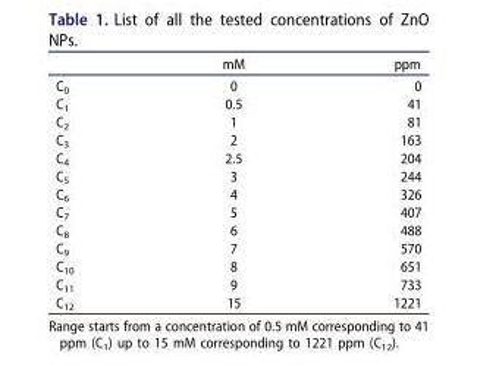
<table><thead><tr><td></td><td>mM</td><td>ppm</td></tr></thead><tbody><tr><td>C<sub>0</sub></td><td>0</td><td>0</td></tr><tr><td>C<sub>1</sub></td><td>0.5</td><td>41</td></tr><tr><td>C<sub>2</sub></td><td>1</td><td>81</td></tr><tr><td>C<sub>3</sub></td><td>2</td><td>163</td></tr><tr><td>C<sub>4</sub></td><td>2.5</td><td>204</td></tr><tr><td>C<sub>5</sub></td><td>3</td><td>244</td></tr><tr><td>C<sub>6</sub></td><td>4</td><td>326</td></tr><tr><td>C<sub>7</sub></td><td>5</td><td>407</td></tr><tr><td>C<sub>8</sub></td><td>6</td><td>488</td></tr><tr><td>C<sub>9</sub></td><td>7</td><td>570</td></tr><tr><td>C<sub>10</sub></td><td>8</td><td>651</td></tr><tr><td>C<sub>11</sub></td><td>9</td><td>733</td></tr><tr><td>C<sub>12</sub></td><td>15</td><td>1221</td></tr></tbody></table>